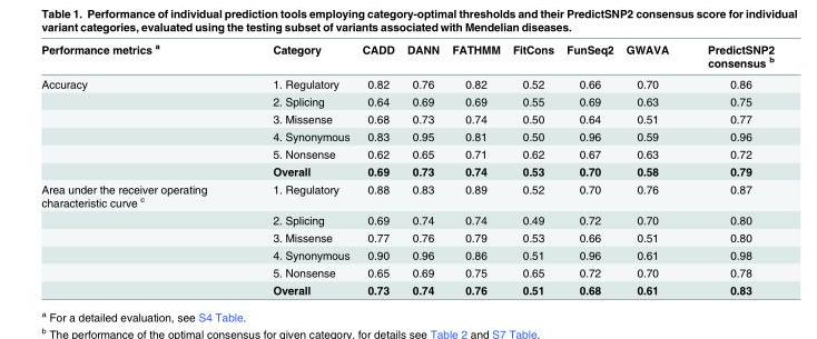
<table><thead><tr><td>Performance metrics <sup>a</sup></td><td>Category</td><td>CADD</td><td>DANN</td><td>FATHMM</td><td>FitCons</td><td>FunSeq2</td><td>GWAVA</td><td>PredictSNP2 consensus <sup>b</sup></td></tr></thead><tbody><tr><td rowspan="6">Accuracy</td><td>1. Regulatory</td><td>0.82</td><td>0.76</td><td>0.82</td><td>0.52</td><td>0.66</td><td>0.70</td><td>0.86</td></tr><tr><td>2. Splicing</td><td>0.64</td><td>0.69</td><td>0.69</td><td>0.55</td><td>0.69</td><td>0.63</td><td>0.75</td></tr><tr><td>3. Missense</td><td>0.68</td><td>0.73</td><td>0.74</td><td>0.50</td><td>0.64</td><td>0.51</td><td>0.77</td></tr><tr><td>4. Synonymous</td><td>0.83</td><td>0.95</td><td>0.81</td><td>0.50</td><td>0.96</td><td>0.59</td><td>0.96</td></tr><tr><td>5. Nonsense</td><td>0.62</td><td>0.65</td><td>0.71</td><td>0.62</td><td>0.67</td><td>0.63</td><td>0.72</td></tr><tr><td>Overall</td><td>0.69</td><td>0.73</td><td>0.74</td><td>0.53</td><td>0.70</td><td>0.58</td><td>0.79</td></tr><tr><td rowspan="6">Area under the receiver operating characteristic curve <sup>c</sup></td><td>1. Regulatory</td><td>0.88</td><td>0.83</td><td>0.89</td><td>0.52</td><td>0.70</td><td>0.76</td><td>0.87</td></tr><tr><td>2. Splicing</td><td>0.69</td><td>0.74</td><td>0.74</td><td>0.49</td><td>0.72</td><td>0.70</td><td>0.80</td></tr><tr><td>3. Missense</td><td>0.77</td><td>0.76</td><td>0.79</td><td>0.53</td><td>0.66</td><td>0.51</td><td>0.80</td></tr><tr><td>4. Synonymous</td><td>0.90</td><td>0.96</td><td>0.86</td><td>0.51</td><td>0.96</td><td>0.61</td><td>0.98</td></tr><tr><td>5. Nonsense</td><td>0.65</td><td>0.69</td><td>0.75</td><td>0.65</td><td>0.72</td><td>0.70</td><td>0.78</td></tr><tr><td>Overall</td><td>0.73</td><td>0.74</td><td>0.76</td><td>0.51</td><td>0.68</td><td>0.61</td><td>0.83</td></tr></tbody></table>